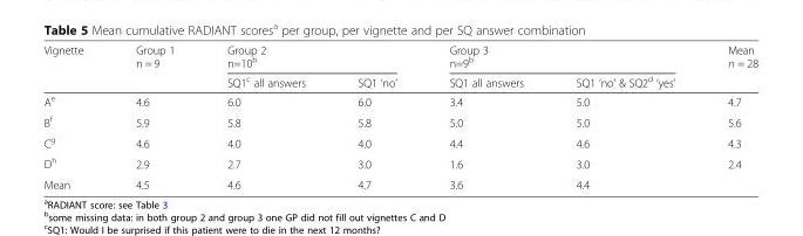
<table><thead><tr><td rowspan="2">Vignette</td><td rowspan="2">Group 1 n = 9</td><td colspan="2">Group 2 n=10<sup>b</sup></td><td colspan="2">Group 3 n=9<sup>b</sup></td><td rowspan="2">Mean n = 28</td></tr><tr><td>SQ1<sup>c</sup> all answers</td><td>SQ1 ‘no’</td><td>SQ1 all answers</td><td>SQ1 ‘no’ &amp; SQ2<sup>d</sup> ‘yes’</td></tr></thead><tbody><tr><td>A<sup>e</sup></td><td>4.6</td><td>6.0</td><td>6.0</td><td>3.4</td><td>5.0</td><td>4.7</td></tr><tr><td>B<sup>f</sup></td><td>5.9</td><td>5.8</td><td>5.8</td><td>5.0</td><td>5.0</td><td>5.6</td></tr><tr><td>C<sup>g</sup></td><td>4.6</td><td>4.0</td><td>4.0</td><td>4.4</td><td>4.6</td><td>4.3</td></tr><tr><td>D<sup>h</sup></td><td>2.9</td><td>2.7</td><td>3.0</td><td>1.6</td><td>3.0</td><td>2.4</td></tr><tr><td>Mean</td><td>4.5</td><td>4.6</td><td>4.7</td><td>3.6</td><td>4.4</td><td></td></tr></tbody></table>